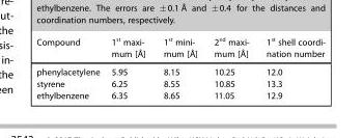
<table><thead><tr><td>Compound</td><td>1st maxi- mum [�]</td><td>1st mini- mum [�]</td><td>2nd maxi- mum [�]</td><td>1st shell coordi- nation number</td></tr></thead><tbody><tr><td>phenylacetylene</td><td>5.95</td><td>8.15</td><td>10.25</td><td>12.0</td></tr><tr><td>styrene</td><td>6.25</td><td>8.55</td><td>10.85</td><td>13.3</td></tr><tr><td>ethylbenzene</td><td>6.35</td><td>8.65</td><td>11.05</td><td>12.9</td></tr></tbody></table>